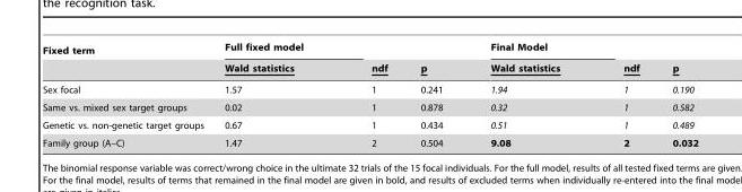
<table><thead><tr><td rowspan="2">Fixed term</td><td rowspan="2">Full fixed model Wald statistics</td><td rowspan="2">ndf</td><td rowspan="2">p</td><td rowspan="2">Final Model Wald statistics</td><td rowspan="2">ndf</td><td rowspan="2">p</td></tr><tr></tr></thead><tbody><tr><td>Sex focal</td><td>1.57</td><td>1</td><td>0.241</td><td>1.94</td><td>1</td><td>0.190</td></tr><tr><td>Same vs. mixed sex target groups</td><td>0.02</td><td>1</td><td>0.878</td><td>0.32</td><td>1</td><td>0.582</td></tr><tr><td>Genetic vs. non-genetic target groups</td><td>0.67</td><td>1</td><td>0.434</td><td>0.51</td><td>1</td><td>0.489</td></tr><tr><td>Family group (A–C)</td><td>1.47</td><td>2</td><td>0.504</td><td>9.08</td><td>2</td><td>0.032</td></tr></tbody></table>